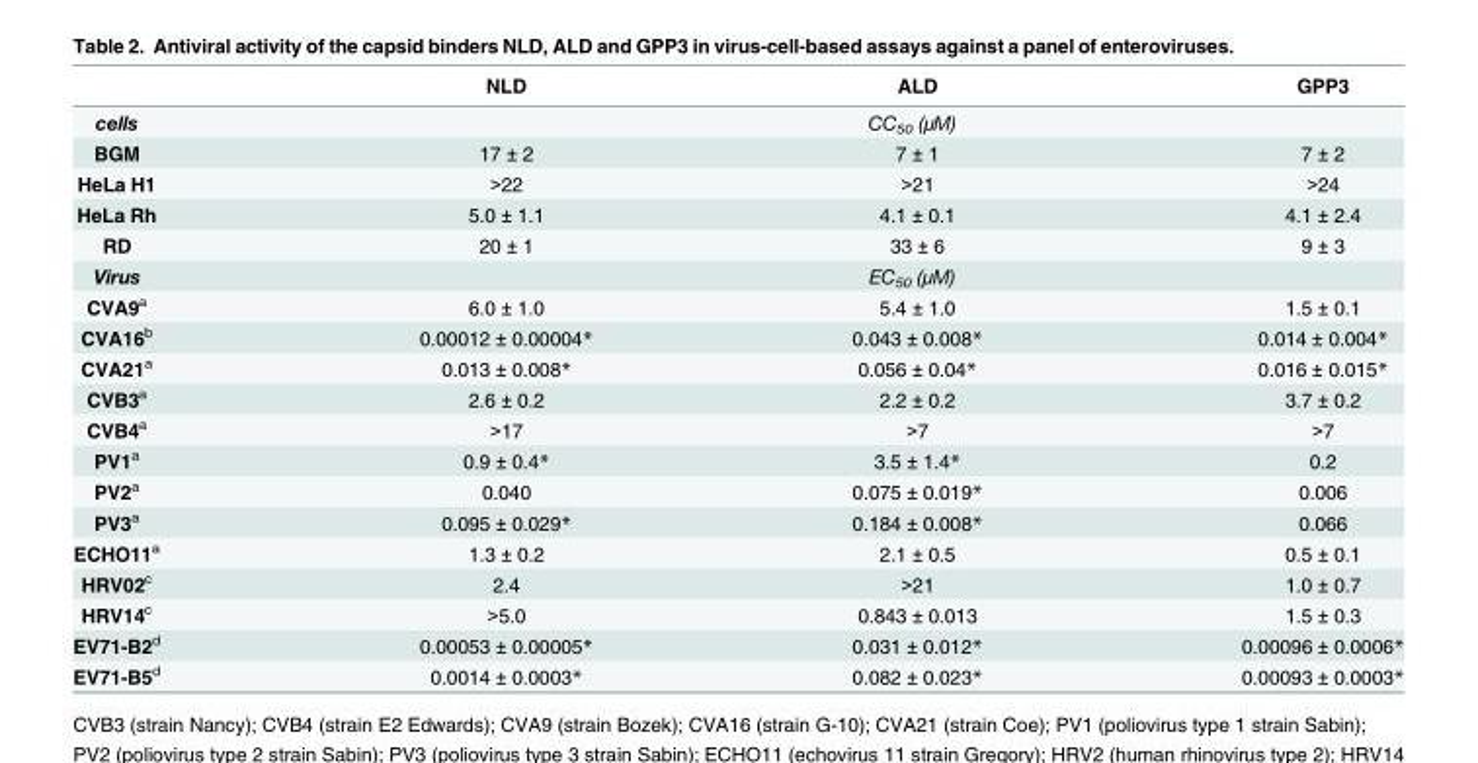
<table><thead><tr><td></td><td>NLD</td><td>ALD</td><td>GPP3</td></tr></thead><tbody><tr><td>cells</td><td colspan="3">CC<sub>50</sub> (μM)</td></tr><tr><td>BGM</td><td>17 ± 2</td><td>7 ± 1</td><td>7 ± 2</td></tr><tr><td>HeLa H1</td><td>&gt;22</td><td>&gt;21</td><td>&gt;24</td></tr><tr><td>HeLa Rh</td><td>5.0 ± 1.1</td><td>4.1 ± 0.1</td><td>4.1 ± 2.4</td></tr><tr><td>RD</td><td>20 ± 1</td><td>33 ± 6</td><td>9 ± 3</td></tr><tr><td>Virus</td><td colspan="3">EC<sub>50</sub> (μM)</td></tr><tr><td>CVA9<sup>a</sup></td><td>6.0 ± 1.0</td><td>5.4 ± 1.0</td><td>1.5 ± 0.1</td></tr><tr><td>CVA16<sup>b</sup></td><td>0.00012 ± 0.00004*</td><td>0.043 ± 0.008*</td><td>0.014 ± 0.004*</td></tr><tr><td>CVA21<sup>a</sup></td><td>0.013 ± 0.008*</td><td>0.056 ± 0.04*</td><td>0.016 ± 0.015*</td></tr><tr><td>CVB3<sup>a</sup></td><td>2.6 ± 0.2</td><td>2.2 ± 0.2</td><td>3.7 ± 0.2</td></tr><tr><td>CVB4<sup>a</sup></td><td>&gt;17</td><td>&gt;7</td><td>&gt;7</td></tr><tr><td>PV1<sup>a</sup></td><td>0.9 ± 0.4*</td><td>3.5 ± 1.4*</td><td>0.2</td></tr><tr><td>PV2<sup>a</sup></td><td>0.040</td><td>0.075 ± 0.019*</td><td>0.006</td></tr><tr><td>PV3<sup>a</sup></td><td>0.095 ± 0.029*</td><td>0.184 ± 0.008*</td><td>0.066</td></tr><tr><td>ECHO11<sup>a</sup></td><td>1.3 ± 0.2</td><td>2.1 ± 0.5</td><td>0.5 ± 0.1</td></tr><tr><td>HRV02<sup>c</sup></td><td>2.4</td><td>&gt;21</td><td>1.0 ± 0.7</td></tr><tr><td>HRV14<sup>c</sup></td><td>&gt;5.0</td><td>0.843 ± 0.013</td><td>1.5 ± 0.3</td></tr><tr><td>EV71-B2<sup>d</sup></td><td>0.00053 ± 0.00005*</td><td>0.031 ± 0.012*</td><td>0.00096 ± 0.0006*</td></tr><tr><td>EV71-B5<sup>d</sup></td><td>0.0014 ± 0.0003*</td><td>0.082 ± 0.023*</td><td>0.00093 ± 0.0003*</td></tr></tbody></table>